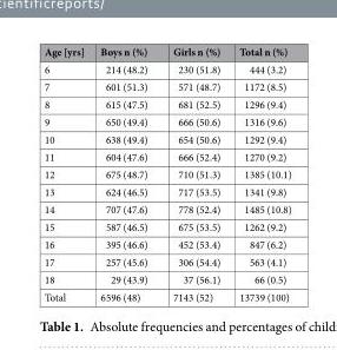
<table><thead><tr><td>Age [yrs]</td><td>Boys n (%)</td><td>Girls n (%)</td><td>Total n (%)</td></tr></thead><tbody><tr><td>6</td><td>214 (48.2)</td><td>230 (51.8)</td><td>444 (3.2)</td></tr><tr><td>7</td><td>601 (51.3)</td><td>571 (48.7)</td><td>1172 (8.5)</td></tr><tr><td>8</td><td>615 (47.5)</td><td>681 (52.5)</td><td>1296 (9.4)</td></tr><tr><td>9</td><td>650 (49.4)</td><td>666 (50.6)</td><td>1316 (9.6)</td></tr><tr><td>10</td><td>638 (49.4)</td><td>654 (50.6)</td><td>1292 (9.4)</td></tr><tr><td>11</td><td>604 (47.6)</td><td>666 (52.4)</td><td>1270 (9.2)</td></tr><tr><td>12</td><td>675 (48.7)</td><td>710 (51.3)</td><td>1385 (10.1)</td></tr><tr><td>13</td><td>624 (46.5)</td><td>717 (53.5)</td><td>1341 (9.8)</td></tr><tr><td>14</td><td>707 (47.6)</td><td>778 (52.4)</td><td>1485 (10.8)</td></tr><tr><td>15</td><td>587 (46.5)</td><td>675 (53.5)</td><td>1262 (9.2)</td></tr><tr><td>16</td><td>395 (46.6)</td><td>452 (53.4)</td><td>847 (6.2)</td></tr><tr><td>17</td><td>257 (45.6)</td><td>306 (54.4)</td><td>563 (4.1)</td></tr><tr><td>18</td><td>29 (43.9)</td><td>37 (56.1)</td><td>66 (0.5)</td></tr><tr><td>Total</td><td>6596 (48)</td><td>7143 (52)</td><td>13739 (100)</td></tr></tbody></table>